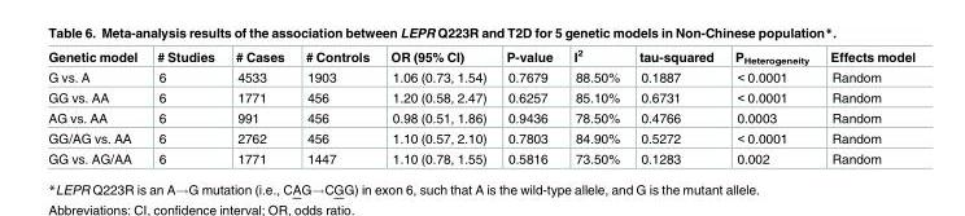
<table><thead><tr><td>Genetic model</td><td># Studies</td><td># Cases</td><td># Controls</td><td>OR (95% CI)</td><td>P-value</td><td>I<sup>2</sup></td><td>tau-squared</td><td>P<sub>Heterogeneity</sub></td><td>Effects model</td></tr></thead><tbody><tr><td>G vs. A</td><td>6</td><td>4533</td><td>1903</td><td>1.06 (0.73, 1.54)</td><td>0.7679</td><td>88.50%</td><td>0.1887</td><td>&lt; 0.0001</td><td>Random</td></tr><tr><td>GG vs. AA</td><td>6</td><td>1771</td><td>456</td><td>1.20 (0.58, 2.47)</td><td>0.6257</td><td>85.10%</td><td>0.6731</td><td>&lt; 0.0001</td><td>Random</td></tr><tr><td>AG vs. AA</td><td>6</td><td>991</td><td>456</td><td>0.98 (0.51, 1.86)</td><td>0.9436</td><td>78.50%</td><td>0.4766</td><td>0.0003</td><td>Random</td></tr><tr><td>GG/AG vs. AA</td><td>6</td><td>2762</td><td>456</td><td>1.10 (0.57, 2.10)</td><td>0.7803</td><td>84.90%</td><td>0.5272</td><td>&lt; 0.0001</td><td>Random</td></tr><tr><td>GG vs. AG/AA</td><td>6</td><td>1771</td><td>1447</td><td>1.10 (0.78, 1.55)</td><td>0.5816</td><td>73.50%</td><td>0.1283</td><td>0.002</td><td>Random</td></tr></tbody></table>